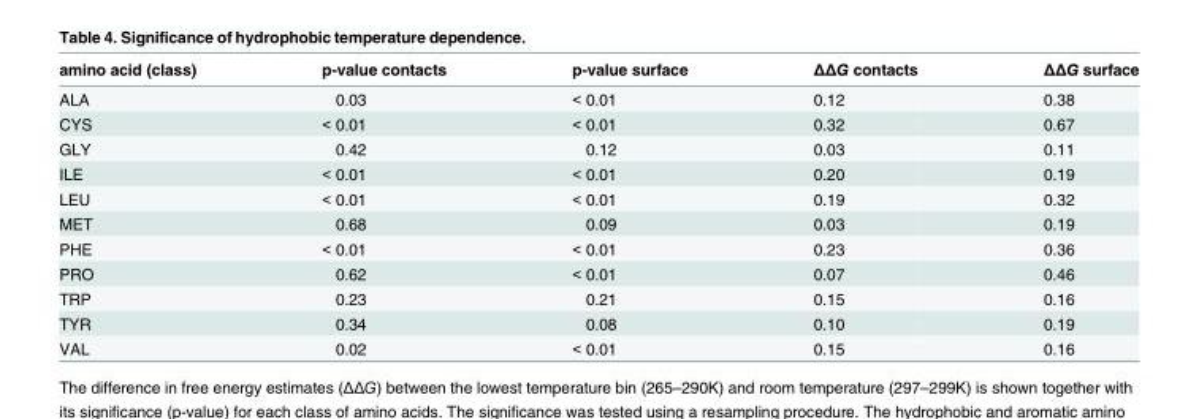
<table><thead><tr><td>amino acid (class)</td><td>p-value contacts</td><td>p-value surface</td><td>ΔΔG contacts</td><td>ΔΔG surface</td></tr></thead><tbody><tr><td>ALA</td><td>0.03</td><td>&lt; 0.01</td><td>0.12</td><td>0.38</td></tr><tr><td>CYS</td><td>&lt; 0.01</td><td>&lt; 0.01</td><td>0.32</td><td>0.67</td></tr><tr><td>GLY</td><td>0.42</td><td>0.12</td><td>0.03</td><td>0.11</td></tr><tr><td>ILE</td><td>&lt; 0.01</td><td>&lt; 0.01</td><td>0.20</td><td>0.19</td></tr><tr><td>LEU</td><td>&lt; 0.01</td><td>&lt; 0.01</td><td>0.19</td><td>0.32</td></tr><tr><td>MET</td><td>0.68</td><td>0.09</td><td>0.03</td><td>0.19</td></tr><tr><td>PHE</td><td>&lt; 0.01</td><td>&lt; 0.01</td><td>0.23</td><td>0.36</td></tr><tr><td>PRO</td><td>0.62</td><td>&lt; 0.01</td><td>0.07</td><td>0.46</td></tr><tr><td>TRP</td><td>0.23</td><td>0.21</td><td>0.15</td><td>0.16</td></tr><tr><td>TYR</td><td>0.34</td><td>0.08</td><td>0.10</td><td>0.19</td></tr><tr><td>VAL</td><td>0.02</td><td>&lt; 0.01</td><td>0.15</td><td>0.16</td></tr></tbody></table>